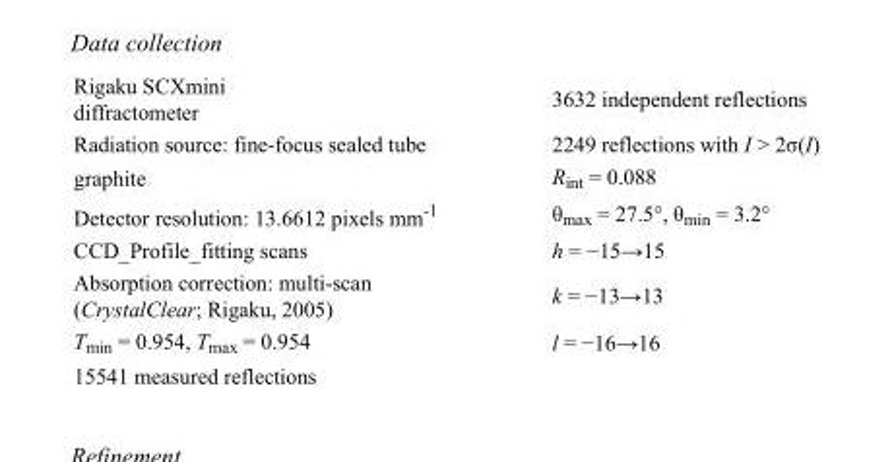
<table><tbody><tr><td>Rigaku SCXmini diffractometer</td><td>3632 independent reflections</td></tr><tr><td>Radiation source: fine-focus sealed tube</td><td>2249 reflections with I &gt; 2σ(I)</td></tr><tr><td>graphite</td><td>R<sub>int</sub> = 0.088</td></tr><tr><td>Detector resolution: 13.6612 pixels mm<sup>-1</sup></td><td>θ<sub>max</sub> = 27.5°, θ<sub>min</sub> = 3.2°</td></tr><tr><td>CCD_Profile_fitting scans</td><td>h = −15→15</td></tr><tr><td>Absorption correction: multi-scan (CrystalClear; Rigaku, 2005)</td><td>k = −13→13</td></tr><tr><td>T<sub>min</sub> = 0.954, T<sub>max</sub> = 0.954</td><td>l = −16→16</td></tr><tr><td>15541 measured reflections</td><td></td></tr></tbody></table>